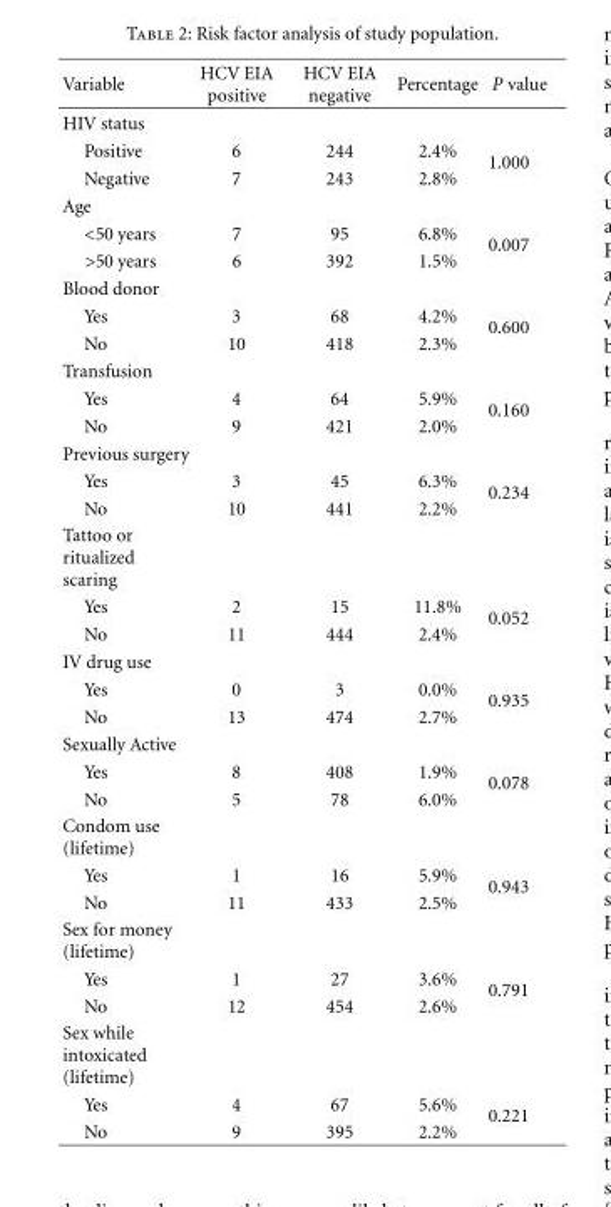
<table><thead><tr><td>Variable</td><td>HCV EIA positive</td><td>HCV EIA negative</td><td>Percentage</td><td>P value</td></tr></thead><tbody><tr><td colspan="5">HIV status</td></tr><tr><td>Positive</td><td>6</td><td>244</td><td>2.4%</td><td rowspan="2">1.000</td></tr><tr><td>Negative</td><td>7</td><td>243</td><td>2.8%</td></tr><tr><td colspan="5">Age</td></tr><tr><td>&lt;50 years</td><td>7</td><td>95</td><td>6.8%</td><td rowspan="2">0.007</td></tr><tr><td>&gt;50 years</td><td>6</td><td>392</td><td>1.5%</td></tr><tr><td colspan="5">Blood donor</td></tr><tr><td>Yes</td><td>3</td><td>68</td><td>4.2%</td><td rowspan="2">0.600</td></tr><tr><td>No</td><td>10</td><td>418</td><td>2.3%</td></tr><tr><td colspan="5">Transfusion</td></tr><tr><td>Yes</td><td>4</td><td>64</td><td>5.9%</td><td rowspan="2">0.160</td></tr><tr><td>No</td><td>9</td><td>421</td><td>2.0%</td></tr><tr><td colspan="5">Previous surgery</td></tr><tr><td>Yes</td><td>3</td><td>45</td><td>6.3%</td><td rowspan="2">0.234</td></tr><tr><td>No</td><td>10</td><td>441</td><td>2.2%</td></tr><tr><td colspan="5">Tattoo or ritualized scaring</td></tr><tr><td>Yes</td><td>2</td><td>15</td><td>11.8%</td><td rowspan="2">0.052</td></tr><tr><td>No</td><td>11</td><td>444</td><td>2.4%</td></tr><tr><td colspan="5">IV drug use</td></tr><tr><td>Yes</td><td>0</td><td>3</td><td>0.0%</td><td rowspan="2">0.935</td></tr><tr><td>No</td><td>13</td><td>474</td><td>2.7%</td></tr><tr><td colspan="5">Sexually Active</td></tr><tr><td>Yes</td><td>8</td><td>408</td><td>1.9%</td><td rowspan="2">0.078</td></tr><tr><td>No</td><td>5</td><td>78</td><td>6.0%</td></tr><tr><td colspan="5">Condom use (lifetime)</td></tr><tr><td>Yes</td><td>1</td><td>16</td><td>5.9%</td><td rowspan="2">0.943</td></tr><tr><td>No</td><td>11</td><td>433</td><td>2.5%</td></tr><tr><td colspan="5">Sex for money (lifetime)</td></tr><tr><td>Yes</td><td>1</td><td>27</td><td>3.6%</td><td rowspan="2">0.791</td></tr><tr><td>No</td><td>12</td><td>454</td><td>2.6%</td></tr><tr><td colspan="5">Sex while intoxicated (lifetime)</td></tr><tr><td>Yes</td><td>4</td><td>67</td><td>5.6%</td><td rowspan="2">0.221</td></tr><tr><td>No</td><td>9</td><td>395</td><td>2.2%</td></tr></tbody></table>